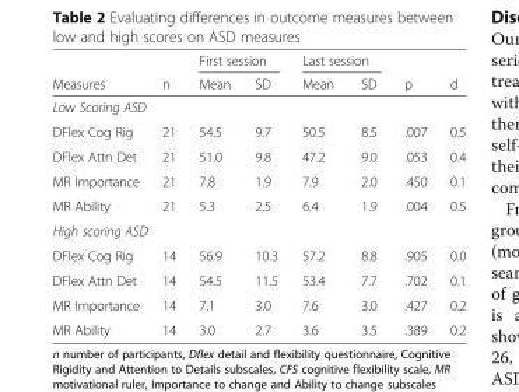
<table><thead><tr><td rowspan="2">Measures</td><td rowspan="2">n</td><td colspan="2">First session</td><td colspan="2">Last session</td><td rowspan="2">p</td><td rowspan="2">d</td></tr><tr><td>Mean</td><td>SD</td><td>Mean</td><td>SD</td></tr></thead><tbody><tr><td colspan="8">Low Scoring ASD</td></tr><tr><td>DFlex Cog Rig</td><td>21</td><td>54.5</td><td>9.7</td><td>50.5</td><td>8.5</td><td>.007</td><td>0.5</td></tr><tr><td>DFlex Attn Det</td><td>21</td><td>51.0</td><td>9.8</td><td>47.2</td><td>9.0</td><td>.053</td><td>0.4</td></tr><tr><td>MR Importance</td><td>21</td><td>7.8</td><td>1.9</td><td>7.9</td><td>2.0</td><td>.450</td><td>0.1</td></tr><tr><td>MR Ability</td><td>21</td><td>5.3</td><td>2.5</td><td>6.4</td><td>1.9</td><td>.004</td><td>0.5</td></tr><tr><td colspan="8">High scoring ASD</td></tr><tr><td>DFlex Cog Rig</td><td>14</td><td>56.9</td><td>10.3</td><td>57.2</td><td>8.8</td><td>.905</td><td>0.0</td></tr><tr><td>DFlex Attn Det</td><td>14</td><td>54.5</td><td>11.5</td><td>53.4</td><td>7.7</td><td>.702</td><td>0.1</td></tr><tr><td>MR Importance</td><td>14</td><td>7.1</td><td>3.0</td><td>7.6</td><td>3.0</td><td>.427</td><td>0.2</td></tr><tr><td>MR Ability</td><td>14</td><td>3.0</td><td>2.7</td><td>3.6</td><td>3.5</td><td>.389</td><td>0.2</td></tr></tbody></table>